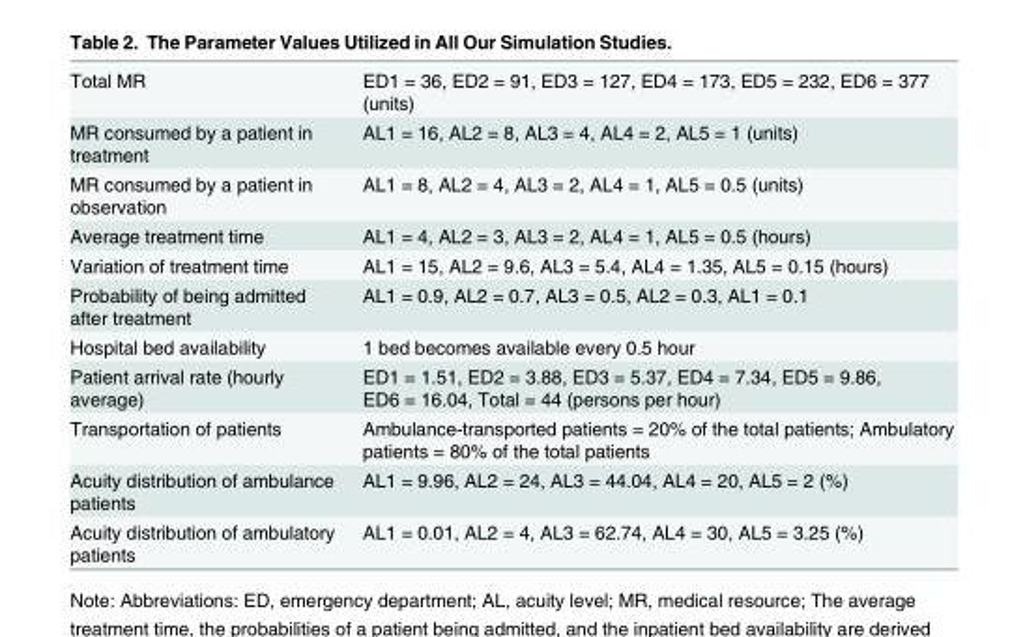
<table><tbody><tr><td>Total MR</td><td>ED1 = 36, ED2 = 91, ED3 = 127, ED4 = 173, ED5 = 232, ED6 = 377 (units)</td></tr><tr><td>MR consumed by a patient in treatment</td><td>AL1 = 16, AL2 = 8, AL3 = 4, AL4 = 2, AL5 = 1 (units)</td></tr><tr><td>MR consumed by a patient in observation</td><td>AL1 = 8, AL2 = 4, AL3 = 2, AL4 = 1, AL5 = 0.5 (units)</td></tr><tr><td>Average treatment time</td><td>AL1 = 4, AL2 = 3, AL3 = 2, AL4 = 1, AL5 = 0.5 (hours)</td></tr><tr><td>Variation of treatment time</td><td>AL1 = 15, AL2 = 9.6, AL3 = 5.4, AL4 = 1.35, AL5 = 0.15 (hours)</td></tr><tr><td>Probability of being admitted after treatment</td><td>AL1 = 0.9, AL2 = 0.7, AL3 = 0.5, AL2 = 0.3, AL1 = 0.1</td></tr><tr><td>Hospital bed availability</td><td>1 bed becomes available every 0.5 hour</td></tr><tr><td>Patient arrival rate (hourly average)</td><td>ED1 = 1.51, ED2 = 3.88, ED3 = 5.37, ED4 = 7.34, ED5 = 9.86, ED6 = 16.04, Total = 44 (persons per hour)</td></tr><tr><td>Transportation of patients</td><td>Ambulance-transported patients = 20% of the total patients; Ambulatory patients = 80% of the total patients</td></tr><tr><td>Acuity distribution of ambulance patients</td><td>AL1 = 9.96, AL2 = 24, AL3 = 44.04, AL4 = 20, AL5 = 2 (%)</td></tr><tr><td>Acuity distribution of ambulatory patients</td><td>AL1 = 0.01, AL2 = 4, AL3 = 62.74, AL4 = 30, AL5 = 3.25 (%)</td></tr></tbody></table>